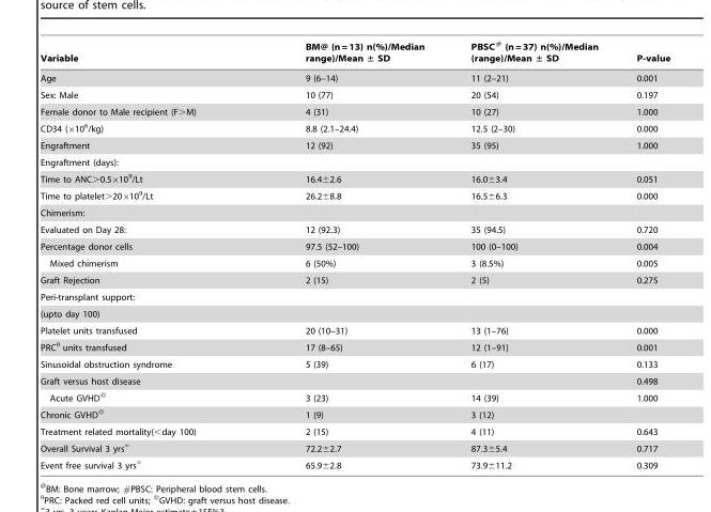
<table><thead><tr><td>Variable</td><td>BM@ (n = 13) n(%)/Median range)/Mean ± SD</td><td>PBSC<sup>#</sup> (n = 37) n(%)/Median (range)/Mean ± SD</td><td>P-value</td></tr></thead><tbody><tr><td>Age</td><td>9 (6–14)</td><td>11 (2–21)</td><td>0.001</td></tr><tr><td>Sex: Male</td><td>10 (77)</td><td>20 (54)</td><td>0.197</td></tr><tr><td>Female donor to Male recipient (F&gt;M)</td><td>4 (31)</td><td>10 (27)</td><td>1.000</td></tr><tr><td>CD34 (×10<sup>6</sup>/kg)</td><td>8.8 (2.1–24.4)</td><td>12.5 (2–30)</td><td>0.000</td></tr><tr><td>Engraftment</td><td>12 (92)</td><td>35 (95)</td><td>1.000</td></tr><tr><td colspan="4">Engraftment (days):</td></tr><tr><td>Time to ANC&gt;0.5×10<sup>9</sup>/Lt</td><td>16.4±2.6</td><td>16.0±3.4</td><td>0.051</td></tr><tr><td>Time to platelet&gt;20×10<sup>9</sup>/Lt</td><td>26.2±8.8</td><td>16.5±6.3</td><td>0.000</td></tr><tr><td colspan="4">Chimerism:</td></tr><tr><td>Evaluated on Day 28:</td><td>12 (92.3)</td><td>35 (94.5)</td><td>0.720</td></tr><tr><td>Percentage donor cells</td><td>97.5 (52–100)</td><td>100 (0–100)</td><td>0.004</td></tr><tr><td>Mixed chimerism</td><td>6 (50%)</td><td>3 (8.5%)</td><td>0.005</td></tr><tr><td>Graft Rejection</td><td>2 (15)</td><td>2 (5)</td><td>0.275</td></tr><tr><td colspan="4">Peri-transplant support:</td></tr><tr><td colspan="4">(upto day 100)</td></tr><tr><td>Platelet units transfused</td><td>20 (10–31)</td><td>13 (1–76)</td><td>0.000</td></tr><tr><td>PRCθ units transfused</td><td>17 (8–65)</td><td>12 (1–91)</td><td>0.001</td></tr><tr><td>Sinusoidal obstruction syndrome</td><td>5 (39)</td><td>6 (17)</td><td>0.133</td></tr><tr><td>Graft versus host disease</td><td></td><td></td><td>0.498</td></tr><tr><td>Acute GVHD<sup>©</sup></td><td>3 (23)</td><td>14 (39)</td><td>1.000</td></tr><tr><td>Chronic GVHD<sup>©</sup></td><td>1 (9)</td><td>3 (12)</td><td></td></tr><tr><td>Treatment related mortality(&lt;day 100)</td><td>2 (15)</td><td>4 (11)</td><td>0.643</td></tr><tr><td>Overall Survival 3 yrs‘</td><td>72.2±2.7</td><td>87.3±5.4</td><td>0.717</td></tr><tr><td>Event free survival 3 yrs‘</td><td>65.9±2.8</td><td>73.9±11.2</td><td>0.309</td></tr></tbody></table>